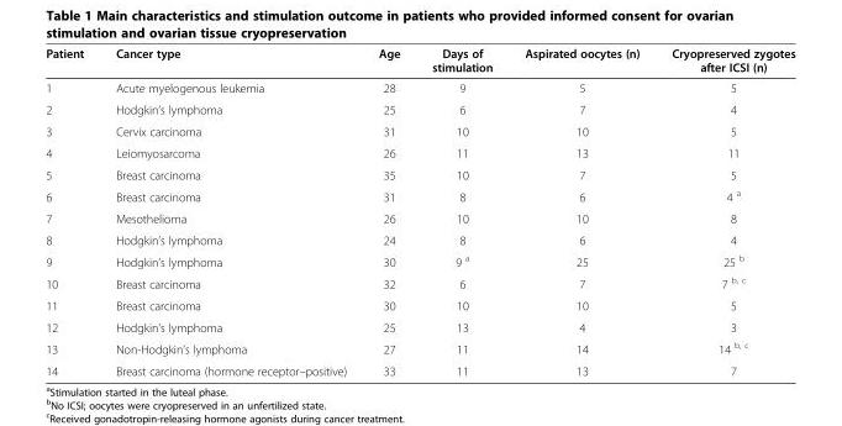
<table><thead><tr><td>Patient</td><td>Cancer type</td><td>Age</td><td>Days of stimulation</td><td>Aspirated oocytes (n)</td><td>Cryopreserved zygotes after ICSI (n)</td></tr></thead><tbody><tr><td>1</td><td>Acute myelogenous leukemia</td><td>28</td><td>9</td><td>5</td><td>5</td></tr><tr><td>2</td><td>Hodgkin’s lymphoma</td><td>25</td><td>6</td><td>7</td><td>4</td></tr><tr><td>3</td><td>Cervix carcinoma</td><td>31</td><td>10</td><td>10</td><td>5</td></tr><tr><td>4</td><td>Leiomyosarcoma</td><td>26</td><td>11</td><td>13</td><td>11</td></tr><tr><td>5</td><td>Breast carcinoma</td><td>35</td><td>10</td><td>7</td><td>5</td></tr><tr><td>6</td><td>Breast carcinoma</td><td>31</td><td>8</td><td>6</td><td>4 <sup>a</sup></td></tr><tr><td>7</td><td>Mesothelioma</td><td>26</td><td>10</td><td>10</td><td>8</td></tr><tr><td>8</td><td>Hodgkin’s lymphoma</td><td>24</td><td>8</td><td>6</td><td>4</td></tr><tr><td>9</td><td>Hodgkin’s lymphoma</td><td>30</td><td>9 <sup>a</sup></td><td>25</td><td>25 <sup>b</sup></td></tr><tr><td>10</td><td>Breast carcinoma</td><td>32</td><td>6</td><td>7</td><td>7 <sup>b, c</sup></td></tr><tr><td>11</td><td>Breast carcinoma</td><td>30</td><td>10</td><td>10</td><td>5</td></tr><tr><td>12</td><td>Hodgkin’s lymphoma</td><td>25</td><td>13</td><td>4</td><td>3</td></tr><tr><td>13</td><td>Non-Hodgkin’s lymphoma</td><td>27</td><td>11</td><td>14</td><td>14 <sup>b, c</sup></td></tr><tr><td>14</td><td>Breast carcinoma (hormone receptor–positive)</td><td>33</td><td>11</td><td>13</td><td>7</td></tr></tbody></table>